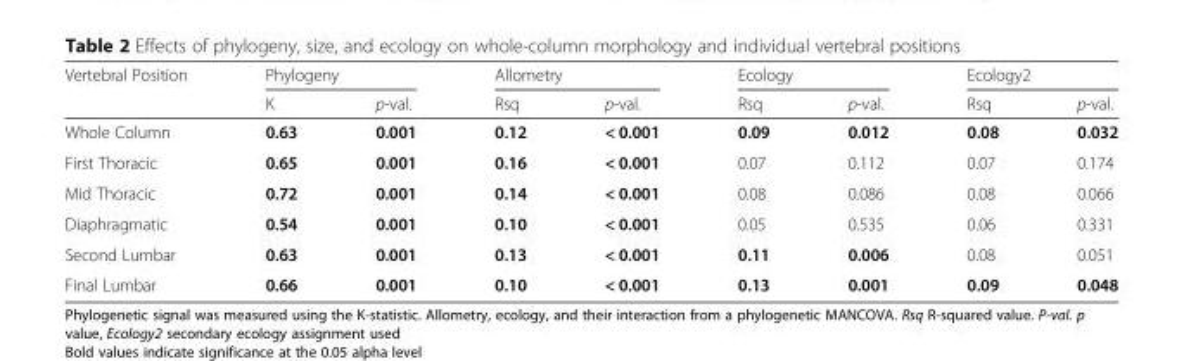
<table><thead><tr><td rowspan="2">Vertebral Position</td><td colspan="2">Phylogeny</td><td colspan="2">Allometry</td><td colspan="2">Ecology</td><td colspan="2">Ecology2</td></tr><tr><td>K</td><td>p-val.</td><td>Rsq</td><td>p-val.</td><td>Rsq</td><td>p-val.</td><td>Rsq</td><td>p-val.</td></tr></thead><tbody><tr><td>Whole Column</td><td>0.63</td><td>0.001</td><td>0.12</td><td>&lt; 0.001</td><td>0.09</td><td>0.012</td><td>0.08</td><td>0.032</td></tr><tr><td>First Thoracic</td><td>0.65</td><td>0.001</td><td>0.16</td><td>&lt; 0.001</td><td>0.07</td><td>0.112</td><td>0.07</td><td>0.174</td></tr><tr><td>Mid Thoracic</td><td>0.72</td><td>0.001</td><td>0.14</td><td>&lt; 0.001</td><td>0.08</td><td>0.086</td><td>0.08</td><td>0.066</td></tr><tr><td>Diaphragmatic</td><td>0.54</td><td>0.001</td><td>0.10</td><td>&lt; 0.001</td><td>0.05</td><td>0.535</td><td>0.06</td><td>0.331</td></tr><tr><td>Second Lumbar</td><td>0.63</td><td>0.001</td><td>0.13</td><td>&lt; 0.001</td><td>0.11</td><td>0.006</td><td>0.08</td><td>0.051</td></tr><tr><td>Final Lumbar</td><td>0.66</td><td>0.001</td><td>0.10</td><td>&lt; 0.001</td><td>0.13</td><td>0.001</td><td>0.09</td><td>0.048</td></tr></tbody></table>